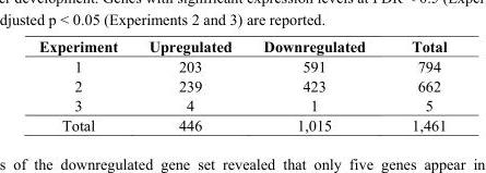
<table><thead><tr><td>Experiment</td><td>Upregulated</td><td>Downregulated</td><td>Total</td></tr></thead><tbody><tr><td>1</td><td>203</td><td>591</td><td>794</td></tr><tr><td>2</td><td>239</td><td>423</td><td>662</td></tr><tr><td>3</td><td>4</td><td>1</td><td>5</td></tr><tr><td>Total</td><td>446</td><td>1,015</td><td>1,461</td></tr></tbody></table>